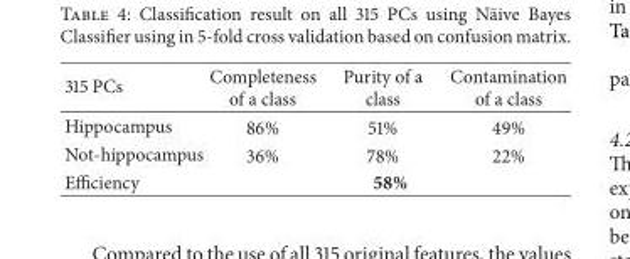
<table><thead><tr><td>315 PCs</td><td>Completeness of a class</td><td>Purity of a class</td><td>Contamination of a class</td></tr></thead><tbody><tr><td>Hippocampus</td><td>86%</td><td>51%</td><td>49%</td></tr><tr><td>Not-hippocampus</td><td>36%</td><td>78%</td><td>22%</td></tr><tr><td>Efficiency</td><td colspan="3">58%</td></tr></tbody></table>